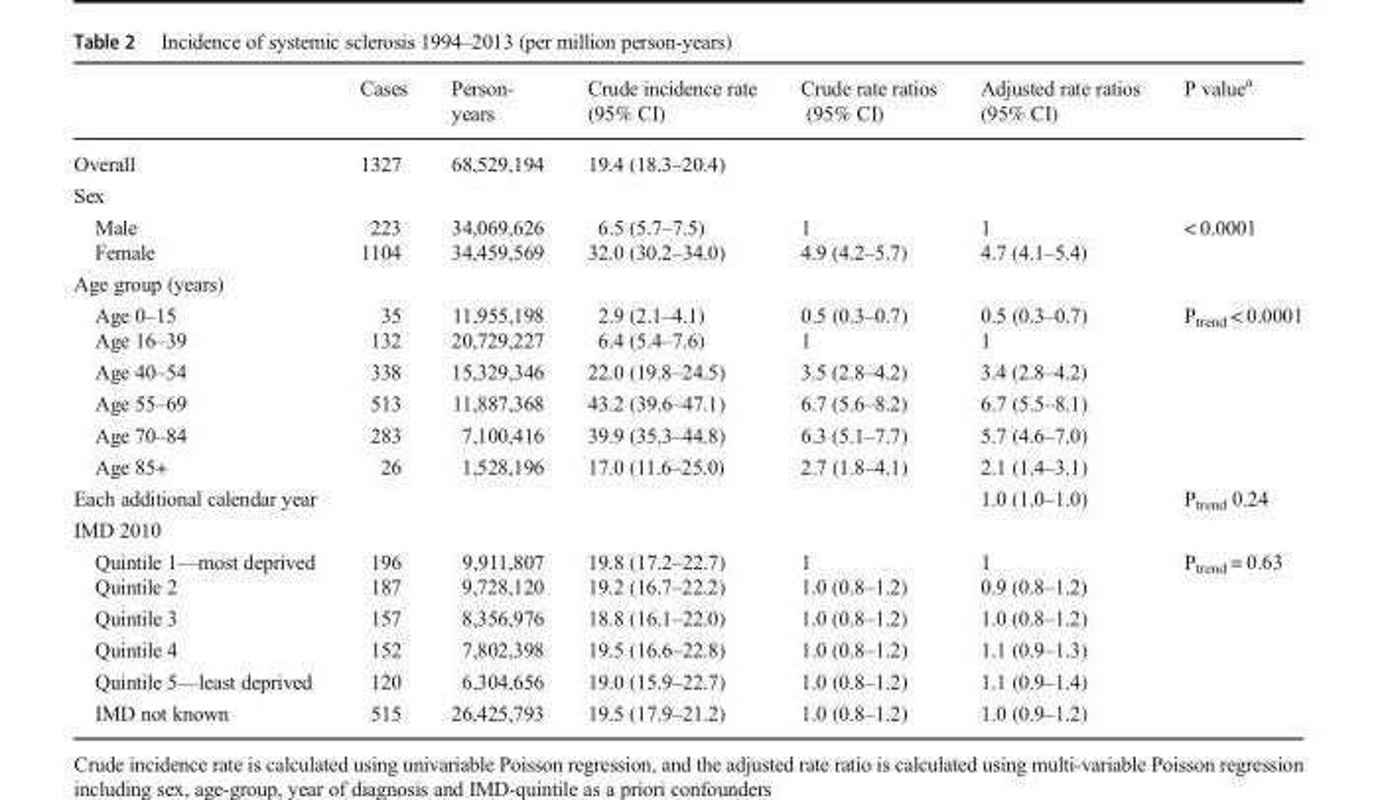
<table><thead><tr><td></td><td>Cases</td><td>Person- years</td><td>Crude incidence rate (95% CI)</td><td>Crude rate ratios (95% CI)</td><td>Adjusted rate ratios (95% CI)</td><td>P value<sup>a</sup></td></tr></thead><tbody><tr><td>Overall</td><td>1327</td><td>68,529,194</td><td>19.4 (18.3–20.4)</td><td></td><td></td><td></td></tr><tr><td colspan="7">Sex</td></tr><tr><td>Male</td><td>223</td><td>34,069,626</td><td>6.5 (5.7–7.5)</td><td>1</td><td>1</td><td rowspan="2">&lt; 0.0001</td></tr><tr><td>Female</td><td>1104</td><td>34,459,569</td><td>32.0 (30.2–34.0)</td><td>4.9 (4.2–5.7)</td><td>4.7 (4.1–5.4)</td></tr><tr><td colspan="7">Age group (years)</td></tr><tr><td>Age 0–15</td><td>35</td><td>11,955,198</td><td>2.9 (2.1–4.1)</td><td>0.5 (0.3–0.7)</td><td>0.5 (0.3–0.7)</td><td rowspan="6">P<sub>trend</sub> &lt; 0.0001</td></tr><tr><td>Age 16–39</td><td>132</td><td>20,729,227</td><td>6.4 (5.4–7.6)</td><td>1</td><td>1</td></tr><tr><td>Age 40–54</td><td>338</td><td>15,329,346</td><td>22.0 (19.8–24.5)</td><td>3.5 (2.8–4.2)</td><td>3.4 (2.8–4.2)</td></tr><tr><td>Age 55–69</td><td>513</td><td>11,887,368</td><td>43.2 (39.6–47.1)</td><td>6.7 (5.6–8.2)</td><td>6.7 (5.5–8.1)</td></tr><tr><td>Age 70–84</td><td>283</td><td>7,100,416</td><td>39.9 (35.3–44.8)</td><td>6.3 (5.1–7.7)</td><td>5.7 (4.6–7.0)</td></tr><tr><td>Age 85+</td><td>26</td><td>1,528,196</td><td>17.0 (11.6–25.0)</td><td>2.7 (1.8–4.1)</td><td>2.1 (1.4–3.1)</td></tr><tr><td>Each additional calendar year</td><td></td><td></td><td></td><td></td><td>1.0 (1.0–1.0)</td><td>P<sub>trend</sub> 0.24</td></tr><tr><td colspan="7">IMD 2010</td></tr><tr><td>Quintile 1—most deprived</td><td>196</td><td>9,911,807</td><td>19.8 (17.2–22.7)</td><td>1</td><td>1</td><td rowspan="5">P<sub>trend</sub> = 0.63</td></tr><tr><td>Quintile 2</td><td>187</td><td>9,728,120</td><td>19.2 (16.7–22.2)</td><td>1.0 (0.8–1.2)</td><td>0.9 (0.8–1.2)</td></tr><tr><td>Quintile 3</td><td>157</td><td>8,356,976</td><td>18.8 (16.1–22.0)</td><td>1.0 (0.8–1.2)</td><td>1.0 (0.8–1.2)</td></tr><tr><td>Quintile 4</td><td>152</td><td>7,802,398</td><td>19.5 (16.6–22.8)</td><td>1.0 (0.8–1.2)</td><td>1.1 (0.9–1.3)</td></tr><tr><td>Quintile 5—least deprived</td><td>120</td><td>6,304,656</td><td>19.0 (15.9–22.7)</td><td>1.0 (0.8–1.2)</td><td>1.1 (0.9–1.4)</td></tr><tr><td>IMD not known</td><td>515</td><td>26,425,793</td><td>19.5 (17.9–21.2)</td><td>1.0 (0.8–1.2)</td><td>1.0 (0.9–1.2)</td><td></td></tr></tbody></table>